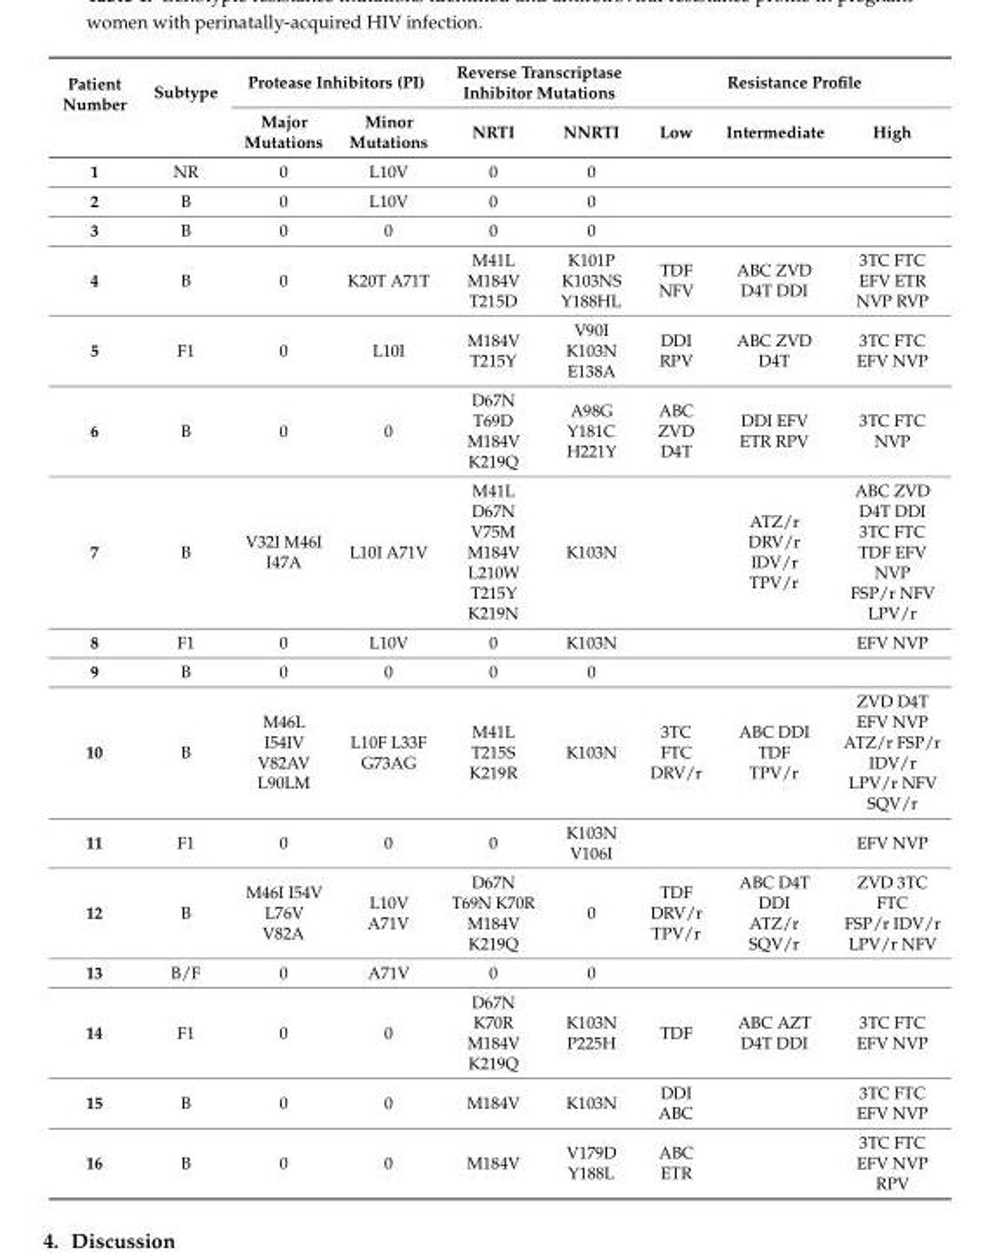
<table><thead><tr><td rowspan="2">Patient Number</td><td rowspan="2">Subtype</td><td colspan="2">Protease Inhibitors (PI)</td><td colspan="2">Reverse Transcriptase Inhibitor Mutations</td><td colspan="3">Resistance Profile</td></tr><tr><td>Major Mutations</td><td>Minor Mutations</td><td>NRTI</td><td>NNRTI</td><td>Low</td><td>Intermediate</td><td>High</td></tr></thead><tbody><tr><td>1</td><td>NR</td><td>0</td><td>L10V</td><td>0</td><td>0</td><td></td><td></td><td></td></tr><tr><td>2</td><td>B</td><td>0</td><td>L10V</td><td>0</td><td>0</td><td></td><td></td><td></td></tr><tr><td>3</td><td>B</td><td>0</td><td>0</td><td>0</td><td>0</td><td></td><td></td><td></td></tr><tr><td>4</td><td>B</td><td>0</td><td>K20T A71T</td><td>M41L M184V T215D</td><td>K101P K103NS Y188HL</td><td>TDF NFV</td><td>ABC ZVD D4T DDI</td><td>3TC FTC EFV ETR NVP RVP</td></tr><tr><td>5</td><td>F1</td><td>0</td><td>L10I</td><td>M184V T215Y</td><td>V90I K103N E138A</td><td>DDI RPV</td><td>ABC ZVD D4T</td><td>3TC FTC EFV NVP</td></tr><tr><td>6</td><td>B</td><td>0</td><td>0</td><td>D67N T69D M184V K219Q</td><td>A98G Y181C H221Y</td><td>ABC ZVD D4T</td><td>DDI EFV ETR RPV</td><td>3TC FTC NVP</td></tr><tr><td>7</td><td>B</td><td>V32I M46I I47A</td><td>L10I A71V</td><td>M41L D67N V75M M184V L210W T215Y K219N</td><td>K103N</td><td></td><td>ATZ/r DRV/r IDV/r TPV/r</td><td>ABC ZVD D4T DDI 3TC FTC TDF EFV NVP FSP/r NFV LPV/r</td></tr><tr><td>8</td><td>F1</td><td>0</td><td>L10V</td><td>0</td><td>K103N</td><td></td><td></td><td>EFV NVP</td></tr><tr><td>9</td><td>B</td><td>0</td><td>0</td><td>0</td><td>0</td><td></td><td></td><td></td></tr><tr><td>10</td><td>B</td><td>M46L I54IV V82AV L90LM</td><td>L10F L33F G73AG</td><td>M41L T215S K219R</td><td>K103N</td><td>3TC FTC DRV/r</td><td>ABC DDI TDF TPV/r</td><td>ZVD D4T EFV NVP ATZ/r FSP/r IDV/r LPV/r NFV SQV/r</td></tr><tr><td>11</td><td>F1</td><td>0</td><td>0</td><td>0</td><td>K103N V106I</td><td></td><td></td><td>EFV NVP</td></tr><tr><td>12</td><td>B</td><td>M46I I54V L76V V82A</td><td>L10V A71V</td><td>D67N T69N K70R M184V K219Q</td><td>0</td><td>TDF DRV/r TPV/r</td><td>ABC D4T DDI ATZ/r SQV/r</td><td>ZVD 3TC FTC FSP/r IDV/r LPV/r NFV</td></tr><tr><td>13</td><td>B/F</td><td>0</td><td>A71V</td><td>0</td><td>0</td><td></td><td></td><td></td></tr><tr><td>14</td><td>F1</td><td>0</td><td>0</td><td>D67N K70R M184V K219Q</td><td>K103N P225H</td><td>TDF</td><td>ABC AZT D4T DDI</td><td>3TC FTC EFV NVP</td></tr><tr><td>15</td><td>B</td><td>0</td><td>0</td><td>M184V</td><td>K103N</td><td>DDI ABC</td><td></td><td>3TC FTC EFV NVP</td></tr><tr><td>16</td><td>B</td><td>0</td><td>0</td><td>M184V</td><td>V179D Y188L</td><td>ABC ETR</td><td></td><td>3TC FTC EFV NVP RPV</td></tr></tbody></table>